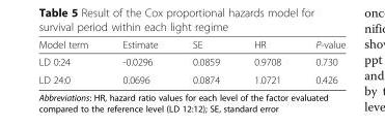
<table><thead><tr><td>Model term</td><td>Estimate</td><td>SE</td><td>HR</td><td>P-value</td></tr></thead><tbody><tr><td>LD 0:24</td><td>-0.0296</td><td>0.0859</td><td>0.9708</td><td>0.730</td></tr><tr><td>LD 24:0</td><td>0.0696</td><td>0.0874</td><td>1.0721</td><td>0.426</td></tr></tbody></table>